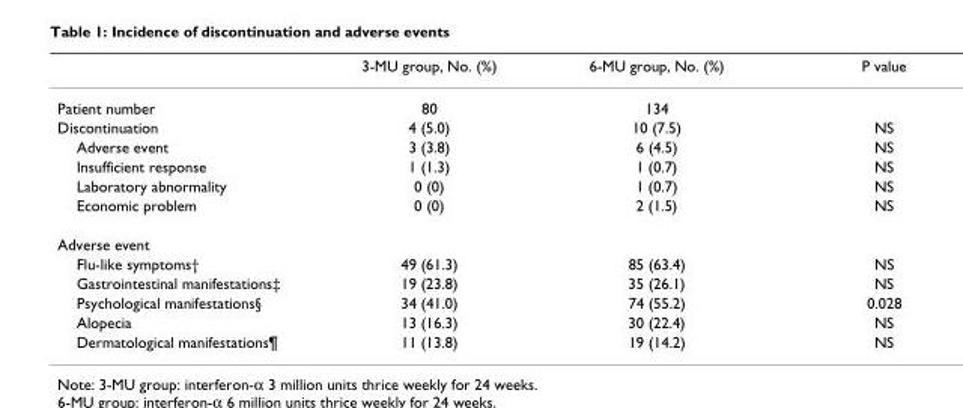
<table><thead><tr><td></td><td>3-MU group, No. (%)</td><td>6-MU group, No. (%)</td><td>P value</td></tr></thead><tbody><tr><td>Patient number</td><td>80</td><td>134</td><td></td></tr><tr><td>Discontinuation</td><td>4 (5.0)</td><td>10 (7.5)</td><td>NS</td></tr><tr><td>Adverse event</td><td>3 (3.8)</td><td>6 (4.5)</td><td>NS</td></tr><tr><td>Insufficient response</td><td>1 (1.3)</td><td>1 (0.7)</td><td>NS</td></tr><tr><td>Laboratory abnormality</td><td>0 (0)</td><td>1 (0.7)</td><td>NS</td></tr><tr><td>Economic problem</td><td>0 (0)</td><td>2 (1.5)</td><td>NS</td></tr><tr><td colspan="4">Adverse event</td></tr><tr><td>Flu-like symptoms†</td><td>49 (61.3)</td><td>85 (63.4)</td><td>NS</td></tr><tr><td>Gastrointestinal manifestations‡</td><td>19 (23.8)</td><td>35 (26.1)</td><td>NS</td></tr><tr><td>Psychological manifestations§</td><td>34 (41.0)</td><td>74 (55.2)</td><td>0.028</td></tr><tr><td>Alopecia</td><td>13 (16.3)</td><td>30 (22.4)</td><td>NS</td></tr><tr><td>Dermatological manifestations¶</td><td>11 (13.8)</td><td>19 (14.2)</td><td>NS</td></tr></tbody></table>